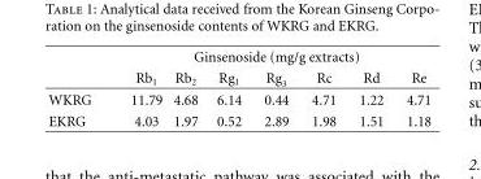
<table><thead><tr><td rowspan="2"></td><td colspan="7">Ginsenoside (mg/g extracts)</td></tr><tr><td>Rb1</td><td>Rb2</td><td>Rg1</td><td>Rg3</td><td>Rc</td><td>Rd</td><td>Re</td></tr></thead><tbody><tr><td>WKRG</td><td>11.79</td><td>4.68</td><td>6.14</td><td>0.44</td><td>4.71</td><td>1.22</td><td>4.71</td></tr><tr><td>EKRG</td><td>4.03</td><td>1.97</td><td>0.52</td><td>2.89</td><td>1.98</td><td>1.51</td><td>1.18</td></tr></tbody></table>